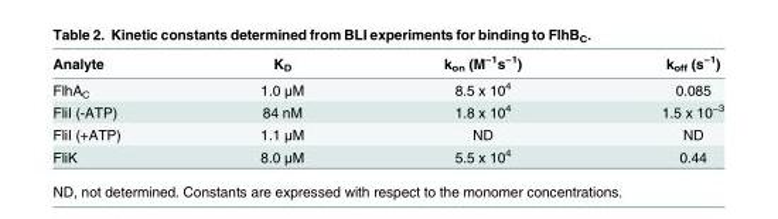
<table><thead><tr><td>Analyte</td><td>K<sub>D</sub></td><td>k<sub>on</sub> (M<sup>−1</sup>s<sup>−1</sup>)</td><td>k<sub>off</sub> (s<sup>−1</sup>)</td></tr></thead><tbody><tr><td>FlhA<sub>C</sub></td><td>1.0 μM</td><td>8.5 x 10<sup>4</sup></td><td>0.085</td></tr><tr><td>FliI (-ATP)</td><td>84 nM</td><td>1.8 x 10<sup>4</sup></td><td>1.5 x 10<sup>−3</sup></td></tr><tr><td>FliI (+ATP)</td><td>1.1 μM</td><td>ND</td><td>ND</td></tr><tr><td>FliK</td><td>8.0 μM</td><td>5.5 x 10<sup>4</sup></td><td>0.44</td></tr></tbody></table>